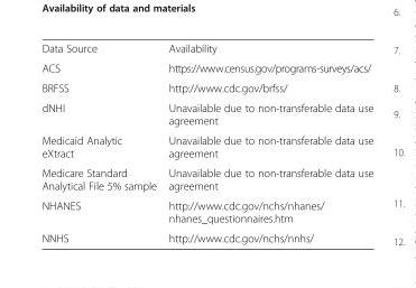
<table><tbody><tr><td>Data Source</td><td>Availability</td></tr><tr><td>ACS</td><td>https://www.census.gov/programs-surveys/acs/</td></tr><tr><td>BRFSS</td><td>http://www.cdc.gov/brfss/</td></tr><tr><td>dNHI</td><td>Unavailable due to non-transferable data use agreement</td></tr><tr><td>Medicaid Analytic eXtract</td><td>Unavailable due to non-transferable data use agreement</td></tr><tr><td>Medicare Standard Analytical File 5% sample</td><td>Unavailable due to non-transferable data use agreement</td></tr><tr><td>NHANES</td><td>http://www.cdc.gov/nchs/nhanes/ nhanes_questionnaires.htm</td></tr><tr><td>NNHS</td><td>http://www.cdc.gov/nchs/nnhs/</td></tr></tbody></table>